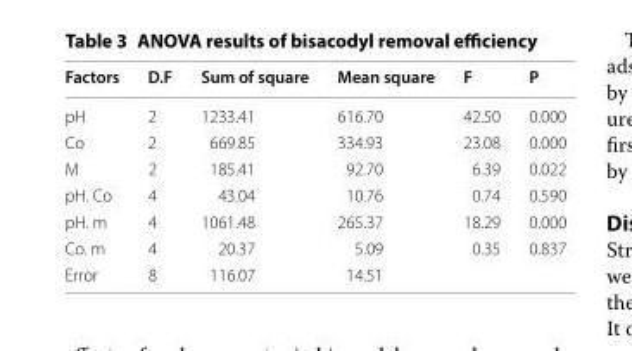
<table><thead><tr><td>Factors</td><td>D.F</td><td>Sum of square</td><td>Mean square</td><td>F</td><td>P</td></tr></thead><tbody><tr><td>pH</td><td>2</td><td>1233.41</td><td>616.70</td><td>42.50</td><td>0.000</td></tr><tr><td>Co</td><td>2</td><td>669.85</td><td>334.93</td><td>23.08</td><td>0.000</td></tr><tr><td>M</td><td>2</td><td>185.41</td><td>92.70</td><td>6.39</td><td>0.022</td></tr><tr><td>pH. Co</td><td>4</td><td>43.04</td><td>10.76</td><td>0.74</td><td>0.590</td></tr><tr><td>pH. m</td><td>4</td><td>1061.48</td><td>265.37</td><td>18.29</td><td>0.000</td></tr><tr><td>Co. m</td><td>4</td><td>20.37</td><td>5.09</td><td>0.35</td><td>0.837</td></tr><tr><td>Error</td><td>8</td><td>116.07</td><td>14.51</td><td></td><td></td></tr></tbody></table>